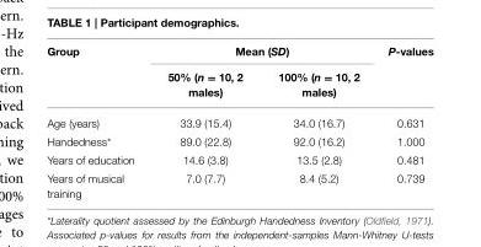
<table><thead><tr><td rowspan="2">Group</td><td colspan="2">Mean (SD)</td><td rowspan="2">P-values</td></tr><tr><td>50% (n = 10, 2 males)</td><td>100% (n = 10, 2 males)</td></tr></thead><tbody><tr><td>Age (years)</td><td>33.9 (15.4)</td><td>34.0 (16.7)</td><td>0.631</td></tr><tr><td>Handedness*</td><td>89.0 (22.8)</td><td>92.0 (16.2)</td><td>1.000</td></tr><tr><td>Years of education</td><td>14.6 (3.8)</td><td>13.5 (2.8)</td><td>0.481</td></tr><tr><td>Years of musical training</td><td>7.0 (7.7)</td><td>8.4 (5.2)</td><td>0.739</td></tr></tbody></table>